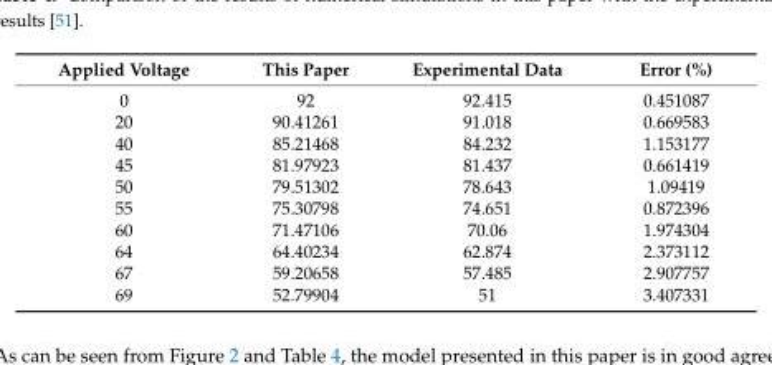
<table><thead><tr><td>Applied Voltage</td><td>This Paper</td><td>Experimental Data</td><td>Error (%)</td></tr></thead><tbody><tr><td>0</td><td>92</td><td>92.415</td><td>0.451087</td></tr><tr><td>20</td><td>90.41261</td><td>91.018</td><td>0.669583</td></tr><tr><td>40</td><td>85.21468</td><td>84.232</td><td>1.153177</td></tr><tr><td>45</td><td>81.97923</td><td>81.437</td><td>0.661419</td></tr><tr><td>50</td><td>79.51302</td><td>78.643</td><td>1.09419</td></tr><tr><td>55</td><td>75.30798</td><td>74.651</td><td>0.872396</td></tr><tr><td>60</td><td>71.47106</td><td>70.06</td><td>1.974304</td></tr><tr><td>64</td><td>64.40234</td><td>62.874</td><td>2.373112</td></tr><tr><td>67</td><td>59.20658</td><td>57.485</td><td>2.907757</td></tr><tr><td>69</td><td>52.79904</td><td>51</td><td>3.407331</td></tr></tbody></table>